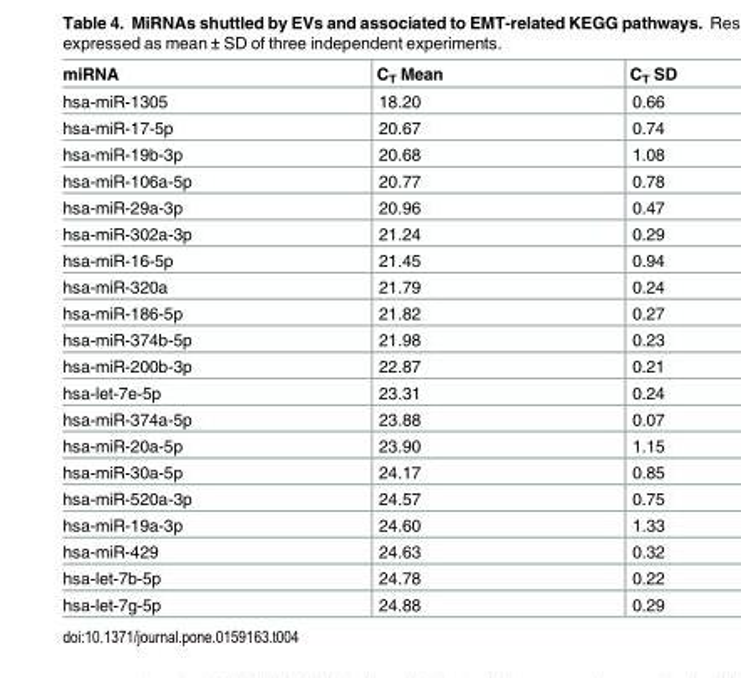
<table><thead><tr><td>miRNA</td><td>C<sub>T</sub> Mean</td><td>C<sub>T</sub> SD</td></tr></thead><tbody><tr><td>hsa-miR-1305</td><td>18.20</td><td>0.66</td></tr><tr><td>hsa-miR-17-5p</td><td>20.67</td><td>0.74</td></tr><tr><td>hsa-miR-19b-3p</td><td>20.68</td><td>1.08</td></tr><tr><td>hsa-miR-106a-5p</td><td>20.77</td><td>0.78</td></tr><tr><td>hsa-miR-29a-3p</td><td>20.96</td><td>0.47</td></tr><tr><td>hsa-miR-302a-3p</td><td>21.24</td><td>0.29</td></tr><tr><td>hsa-miR-16-5p</td><td>21.45</td><td>0.94</td></tr><tr><td>hsa-miR-320a</td><td>21.79</td><td>0.24</td></tr><tr><td>hsa-miR-186-5p</td><td>21.82</td><td>0.27</td></tr><tr><td>hsa-miR-374b-5p</td><td>21.98</td><td>0.23</td></tr><tr><td>hsa-miR-200b-3p</td><td>22.87</td><td>0.21</td></tr><tr><td>hsa-let-7e-5p</td><td>23.31</td><td>0.24</td></tr><tr><td>hsa-miR-374a-5p</td><td>23.88</td><td>0.07</td></tr><tr><td>hsa-miR-20a-5p</td><td>23.90</td><td>1.15</td></tr><tr><td>hsa-miR-30a-5p</td><td>24.17</td><td>0.85</td></tr><tr><td>hsa-miR-520a-3p</td><td>24.57</td><td>0.75</td></tr><tr><td>hsa-miR-19a-3p</td><td>24.60</td><td>1.33</td></tr><tr><td>hsa-miR-429</td><td>24.63</td><td>0.32</td></tr><tr><td>hsa-let-7b-5p</td><td>24.78</td><td>0.22</td></tr><tr><td>hsa-let-7g-5p</td><td>24.88</td><td>0.29</td></tr></tbody></table>